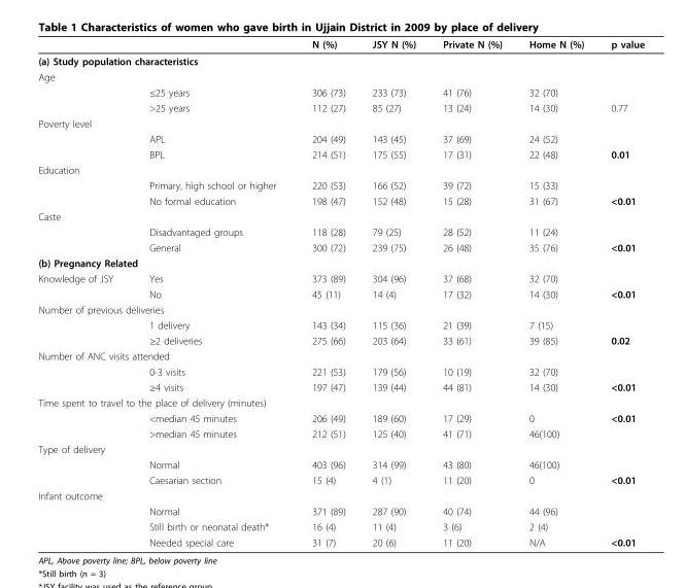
<table><thead><tr><td></td><td></td><td>N (%)</td><td>JSY N (%)</td><td>Private N (%)</td><td>Home N (%)</td><td>p value</td></tr></thead><tbody><tr><td colspan="7">(a) Study population characteristics</td></tr><tr><td colspan="7">Age</td></tr><tr><td></td><td>≤25 years</td><td>306 (73)</td><td>233 (73)</td><td>41 (76)</td><td>32 (70)</td><td></td></tr><tr><td></td><td>&gt;25 years</td><td>112 (27)</td><td>85 (27)</td><td>13 (24)</td><td>14 (30)</td><td>0.77</td></tr><tr><td colspan="7">Poverty level</td></tr><tr><td></td><td>APL</td><td>204 (49)</td><td>143 (45)</td><td>37 (69)</td><td>24 (52)</td><td></td></tr><tr><td></td><td>BPL</td><td>214 (51)</td><td>175 (55)</td><td>17 (31)</td><td>22 (48)</td><td>0.01</td></tr><tr><td colspan="7">Education</td></tr><tr><td></td><td>Primary, high school or higher</td><td>220 (53)</td><td>166 (52)</td><td>39 (72)</td><td>15 (33)</td><td></td></tr><tr><td></td><td>No formal education</td><td>198 (47)</td><td>152 (48)</td><td>15 (28)</td><td>31 (67)</td><td>&lt;0.01</td></tr><tr><td colspan="7">Caste</td></tr><tr><td></td><td>Disadvantaged groups</td><td>118 (28)</td><td>79 (25)</td><td>28 (52)</td><td>11 (24)</td><td></td></tr><tr><td></td><td>General</td><td>300 (72)</td><td>239 (75)</td><td>26 (48)</td><td>35 (76)</td><td>&lt;0.01</td></tr><tr><td colspan="7">(b) Pregnancy Related</td></tr><tr><td rowspan="2">Knowledge of JSY</td><td>Yes</td><td>373 (89)</td><td>304 (96)</td><td>37 (68)</td><td>32 (70)</td><td></td></tr><tr><td>No</td><td>45 (11)</td><td>14 (4)</td><td>17 (32)</td><td>14 (30)</td><td>&lt;0.01</td></tr><tr><td colspan="7">Number of previous deliveries</td></tr><tr><td></td><td>1 delivery</td><td>143 (34)</td><td>115 (36)</td><td>21 (39)</td><td>7 (15)</td><td></td></tr><tr><td></td><td>≥2 deliveries</td><td>275 (66)</td><td>203 (64)</td><td>33 (61)</td><td>39 (85)</td><td>0.02</td></tr><tr><td colspan="7">Number of ANC visits attended</td></tr><tr><td></td><td>0-3 visits</td><td>221 (53)</td><td>179 (56)</td><td>10 (19)</td><td>32 (70)</td><td></td></tr><tr><td></td><td>≥4 visits</td><td>197 (47)</td><td>139 (44)</td><td>44 (81)</td><td>14 (30)</td><td>&lt;0.01</td></tr><tr><td colspan="7">Time spent to travel to the place of delivery (minutes)</td></tr><tr><td></td><td>&lt;median 45 minutes</td><td>206 (49)</td><td>189 (60)</td><td>17 (29)</td><td>0</td><td>&lt;0.01</td></tr><tr><td></td><td>&gt;median 45 minutes</td><td>212 (51)</td><td>125 (40)</td><td>41 (71)</td><td>46(100)</td><td></td></tr><tr><td colspan="7">Type of delivery</td></tr><tr><td></td><td>Normal</td><td>403 (96)</td><td>314 (99)</td><td>43 (80)</td><td>46(100)</td><td></td></tr><tr><td></td><td>Caesarian section</td><td>15 (4)</td><td>4 (1)</td><td>11 (20)</td><td>0</td><td>&lt;0.01</td></tr><tr><td colspan="7">Infant outcome</td></tr><tr><td></td><td>Normal</td><td>371 (89)</td><td>287 (90)</td><td>40 (74)</td><td>44 (96)</td><td></td></tr><tr><td></td><td>Still birth or neonatal death*</td><td>16 (4)</td><td>11 (4)</td><td>3 (6)</td><td>2 (4)</td><td></td></tr><tr><td></td><td>Needed special care</td><td>31 (7)</td><td>20 (6)</td><td>11 (20)</td><td>N/A</td><td>&lt;0.01</td></tr></tbody></table>